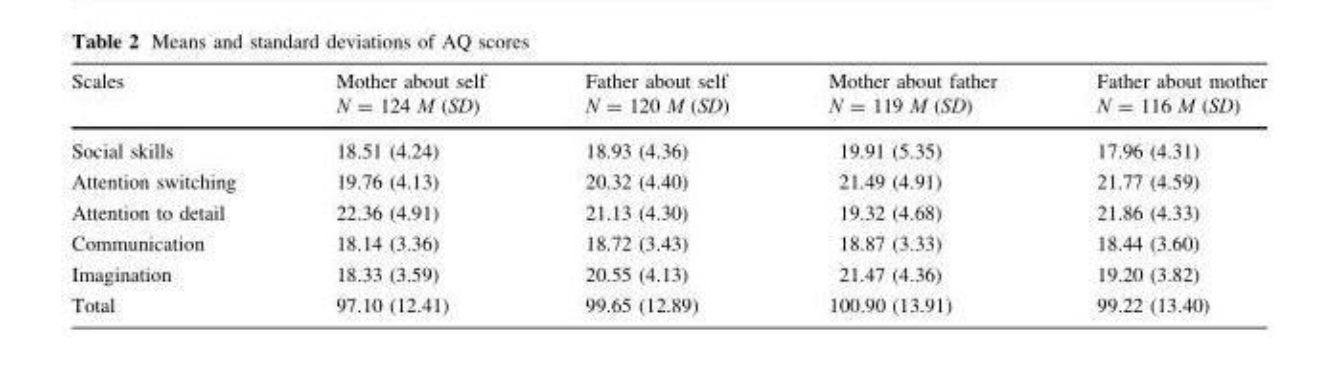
<table><thead><tr><td>Scales</td><td>Mother about self N = 124 M (SD)</td><td>Father about self N = 120 M (SD)</td><td>Mother about father N = 119 M (SD)</td><td>Father about mother N = 116 M (SD)</td></tr></thead><tbody><tr><td>Social skills</td><td>18.51 (4.24)</td><td>18.93 (4.36)</td><td>19.91 (5.35)</td><td>17.96 (4.31)</td></tr><tr><td>Attention switching</td><td>19.76 (4.13)</td><td>20.32 (4.40)</td><td>21.49 (4.91)</td><td>21.77 (4.59)</td></tr><tr><td>Attention to detail</td><td>22.36 (4.91)</td><td>21.13 (4.30)</td><td>19.32 (4.68)</td><td>21.86 (4.33)</td></tr><tr><td>Communication</td><td>18.14 (3.36)</td><td>18.72 (3.43)</td><td>18.87 (3.33)</td><td>18.44 (3.60)</td></tr><tr><td>Imagination</td><td>18.33 (3.59)</td><td>20.55 (4.13)</td><td>21.47 (4.36)</td><td>19.20 (3.82)</td></tr><tr><td>Total</td><td>97.10 (12.41)</td><td>99.65 (12.89)</td><td>100.90 (13.91)</td><td>99.22 (13.40)</td></tr></tbody></table>